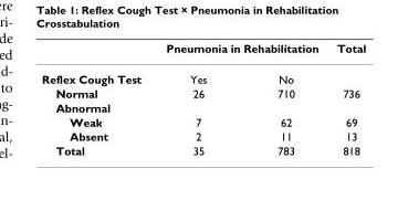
<table><thead><tr><td rowspan="2">Reflex Cough Test</td><td colspan="2">Pneumonia in Rehabilitation</td><td rowspan="2">Total</td></tr><tr><td>Yes</td><td>No</td></tr></thead><tbody><tr><td>Normal</td><td>26</td><td>710</td><td>736</td></tr><tr><td colspan="4">Abnormal</td></tr><tr><td>Weak</td><td>7</td><td>62</td><td>69</td></tr><tr><td>Absent</td><td>2</td><td>11</td><td>13</td></tr><tr><td>Total</td><td>35</td><td>783</td><td>818</td></tr></tbody></table>